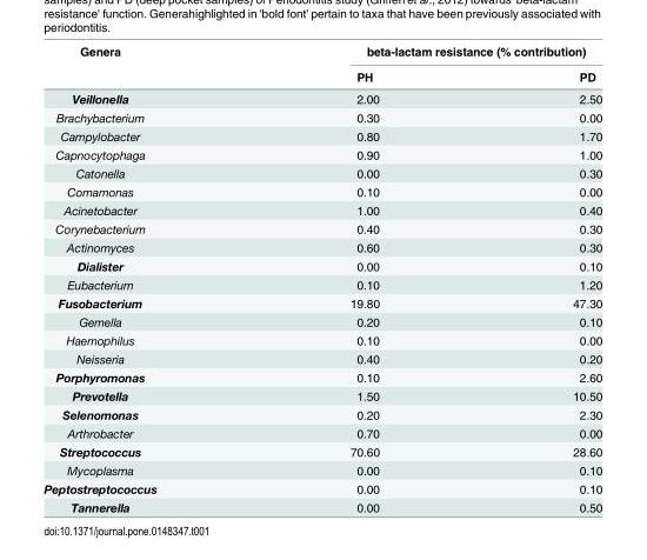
<table><thead><tr><td rowspan="2">Genera</td><td colspan="2">beta-lactam resistance (% contribution)</td></tr><tr><td>PH</td><td>PD</td></tr></thead><tbody><tr><td>Veillonella</td><td>2.00</td><td>2.50</td></tr><tr><td>Brachybacterium</td><td>0.30</td><td>0.00</td></tr><tr><td>Campylobacter</td><td>0.80</td><td>1.70</td></tr><tr><td>Capnocytophaga</td><td>0.90</td><td>1.00</td></tr><tr><td>Catonella</td><td>0.00</td><td>0.30</td></tr><tr><td>Comamonas</td><td>0.10</td><td>0.00</td></tr><tr><td>Acinetobacter</td><td>1.00</td><td>0.40</td></tr><tr><td>Corynebacterium</td><td>0.40</td><td>0.30</td></tr><tr><td>Actinomyces</td><td>0.60</td><td>0.30</td></tr><tr><td>Dialister</td><td>0.00</td><td>0.10</td></tr><tr><td>Eubacterium</td><td>0.10</td><td>1.20</td></tr><tr><td>Fusobacterium</td><td>19.80</td><td>47.30</td></tr><tr><td>Gemella</td><td>0.20</td><td>0.10</td></tr><tr><td>Haemophilus</td><td>0.10</td><td>0.00</td></tr><tr><td>Neisseria</td><td>0.40</td><td>0.20</td></tr><tr><td>Porphyromonas</td><td>0.10</td><td>2.60</td></tr><tr><td>Prevotella</td><td>1.50</td><td>10.50</td></tr><tr><td>Selenomonas</td><td>0.20</td><td>2.30</td></tr><tr><td>Arthrobacter</td><td>0.70</td><td>0.00</td></tr><tr><td>Streptococcus</td><td>70.60</td><td>28.60</td></tr><tr><td>Mycoplasma</td><td>0.00</td><td>0.10</td></tr><tr><td>Peptostreptococcus</td><td>0.00</td><td>0.10</td></tr><tr><td>Tannerella</td><td>0.00</td><td>0.50</td></tr></tbody></table>